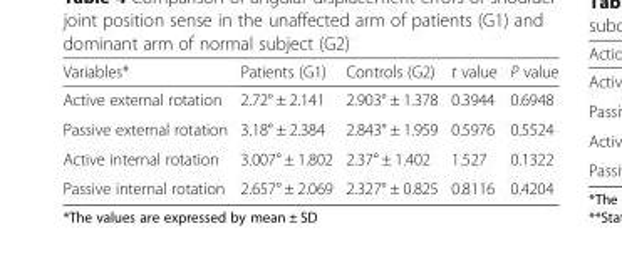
<table><thead><tr><td>Variables*</td><td>Patients (G1)</td><td>Controls (G2)</td><td>t value</td><td>P value</td></tr></thead><tbody><tr><td>Active external rotation</td><td>2.72° ± 2.141</td><td>2.903° ± 1.378</td><td>0.3944</td><td>0.6948</td></tr><tr><td>Passive external rotation</td><td>3.18° ± 2.384</td><td>2.843° ± 1.959</td><td>0.5976</td><td>0.5524</td></tr><tr><td>Active internal rotation</td><td>3.007° ± 1.802</td><td>2.37° ± 1.402</td><td>1.527</td><td>0.1322</td></tr><tr><td>Passive internal rotation</td><td>2.657° ± 2.069</td><td>2.327° ± 0.825</td><td>0.8116</td><td>0.4204</td></tr></tbody></table>